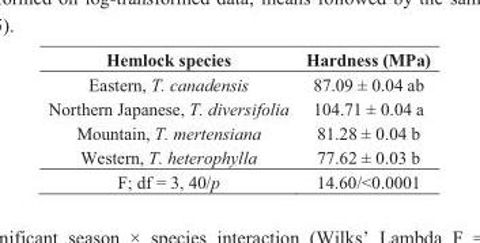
<table><thead><tr><td>Hemlock species</td><td>Hardness (MPa)</td></tr></thead><tbody><tr><td>Eastern, T. canadensis</td><td>87.09 ± 0.04 ab</td></tr><tr><td>Northern Japanese, T. diversifolia</td><td>104.71 ± 0.04 a</td></tr><tr><td>Mountain, T. mertensiana</td><td>81.28 ± 0.04 b</td></tr><tr><td>Western, T. heterophylla</td><td>77.62 ± 0.03 b</td></tr><tr><td>F; df = 3, 40/p</td><td>14.60/&lt;0.0001</td></tr></tbody></table>